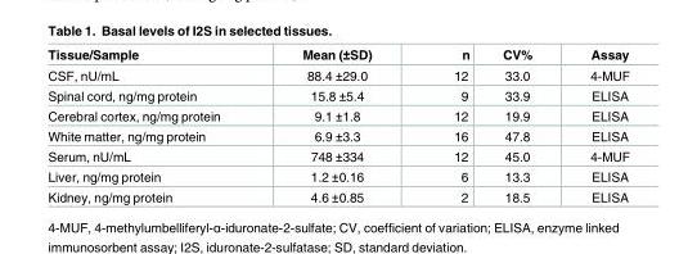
<table><thead><tr><td>Tissue/Sample</td><td>Mean (±SD)</td><td>n</td><td>CV%</td><td>Assay</td></tr></thead><tbody><tr><td>CSF, nU/mL</td><td>88.4 ±29.0</td><td>12</td><td>33.0</td><td>4-MUF</td></tr><tr><td>Spinal cord, ng/mg protein</td><td>15.8 ±5.4</td><td>9</td><td>33.9</td><td>ELISA</td></tr><tr><td>Cerebral cortex, ng/mg protein</td><td>9.1 ±1.8</td><td>12</td><td>19.9</td><td>ELISA</td></tr><tr><td>White matter, ng/mg protein</td><td>6.9 ±3.3</td><td>16</td><td>47.8</td><td>ELISA</td></tr><tr><td>Serum, nU/mL</td><td>748 ±334</td><td>12</td><td>45.0</td><td>4-MUF</td></tr><tr><td>Liver, ng/mg protein</td><td>1.2 ±0.16</td><td>6</td><td>13.3</td><td>ELISA</td></tr><tr><td>Kidney, ng/mg protein</td><td>4.6 ±0.85</td><td>2</td><td>18.5</td><td>ELISA</td></tr></tbody></table>